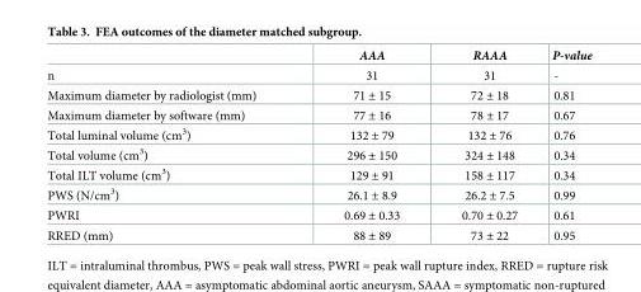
<table><thead><tr><td></td><td>AAA</td><td>RAAA</td><td>P-value</td></tr></thead><tbody><tr><td>n</td><td>31</td><td>31</td><td>-</td></tr><tr><td>Maximum diameter by radiologist (mm)</td><td>71 ± 15</td><td>72 ± 18</td><td>0.81</td></tr><tr><td>Maximum diameter by software (mm)</td><td>77 ± 16</td><td>78 ± 17</td><td>0.67</td></tr><tr><td>Total luminal volume (cm<sup>3</sup>)</td><td>132 ± 79</td><td>132 ± 76</td><td>0.76</td></tr><tr><td>Total volume (cm<sup>3</sup>)</td><td>296 ± 150</td><td>324 ± 148</td><td>0.34</td></tr><tr><td>Total ILT volume (cm<sup>3</sup>)</td><td>129 ± 91</td><td>158 ± 117</td><td>0.34</td></tr><tr><td>PWS (N/cm<sup>3</sup>)</td><td>26.1 ± 8.9</td><td>26.2 ± 7.5</td><td>0.99</td></tr><tr><td>PWRI</td><td>0.69 ± 0.33</td><td>0.70 ± 0.27</td><td>0.61</td></tr><tr><td>RRED (mm)</td><td>88 ± 89</td><td>73 ± 22</td><td>0.95</td></tr></tbody></table>